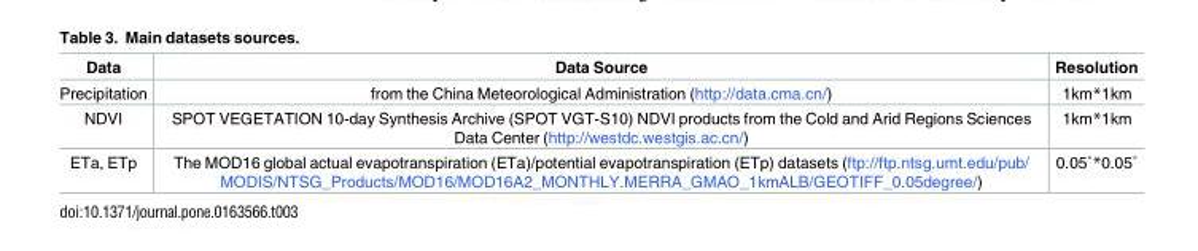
<table><thead><tr><td>Data</td><td>Data Source</td><td>Resolution</td></tr></thead><tbody><tr><td>Precipitation</td><td>from the China Meteorological Administration (http://data.cma.cn/)</td><td>1km*1km</td></tr><tr><td>NDVI</td><td>SPOT VEGETATION 10-day Synthesis Archive (SPOT VGT-S10) NDVI products from the Cold and Arid Regions Sciences Data Center (http://westdc.westgis.ac.cn/)</td><td>1km*1km</td></tr><tr><td>ETa, ETp</td><td>The MOD16 global actual evapotranspiration (ETa)/potential evapotranspiration (ETp) datasets (ftp://ftp.ntsg.umt.edu/pub/ MODIS/NTSG_Products/MOD16/MOD16A2_MONTHLY.MERRA_GMAO_1kmALB/GEOTIFF_0.05degree/)</td><td>0.05˚*0.05˚</td></tr></tbody></table>